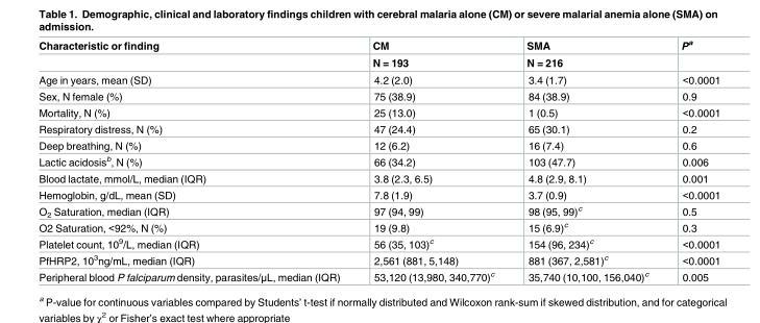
<table><thead><tr><td rowspan="2">Characteristic or finding</td><td rowspan="2">CM N = 193</td><td rowspan="2">SMA N = 216</td><td rowspan="2">P<sup>a</sup></td></tr><tr></tr></thead><tbody><tr><td>Age in years, mean (SD)</td><td>4.2 (2.0)</td><td>3.4 (1.7)</td><td>&lt;0.0001</td></tr><tr><td>Sex, N female (%)</td><td>75 (38.9)</td><td>84 (38.9)</td><td>0.9</td></tr><tr><td>Mortality, N (%)</td><td>25 (13.0)</td><td>1 (0.5)</td><td>&lt;0.0001</td></tr><tr><td>Respiratory distress, N (%)</td><td>47 (24.4)</td><td>65 (30.1)</td><td>0.2</td></tr><tr><td>Deep breathing, N (%)</td><td>12 (6.2)</td><td>16 (7.4)</td><td>0.6</td></tr><tr><td>Lactic acidosis<sup>b</sup>, N (%)</td><td>66 (34.2)</td><td>103 (47.7)</td><td>0.006</td></tr><tr><td>Blood lactate, mmol/L, median (IQR)</td><td>3.8 (2.3, 6.5)</td><td>4.8 (2.9, 8.1)</td><td>0.001</td></tr><tr><td>Hemoglobin, g/dL, mean (SD)</td><td>7.8 (1.9)</td><td>3.7 (0.9)</td><td>&lt;0.0001</td></tr><tr><td>O<sub>2</sub> Saturation, median (IQR)</td><td>97 (94, 99)</td><td>98 (95, 99)<sup>c</sup></td><td>0.5</td></tr><tr><td>O2 Saturation, &lt;92%, N (%)</td><td>19 (9.8)</td><td>15 (6.9)<sup>c</sup></td><td>0.3</td></tr><tr><td>Platelet count, 10<sup>9</sup>/L, median (IQR)</td><td>56 (35, 103)<sup>c</sup></td><td>154 (96, 234)<sup>c</sup></td><td>&lt;0.0001</td></tr><tr><td>PfHRP2, 10<sup>3</sup>ng/mL, median (IQR)</td><td>2,561 (881, 5,148)</td><td>881 (367, 2,581)<sup>c</sup></td><td>&lt;0.0001</td></tr><tr><td>Peripheral blood P falciparum density, parasites/μL, median (IQR)</td><td>53,120 (13,980, 340,770)<sup>c</sup></td><td>35,740 (10,100, 156,040)<sup>c</sup></td><td>0.005</td></tr></tbody></table>